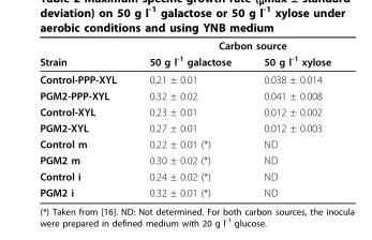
<table><thead><tr><td rowspan="2">Strain</td><td colspan="2">Carbon source</td></tr><tr><td>50 g l<sup>-1</sup> galactose</td><td>50 g l<sup>-1</sup> xylose</td></tr></thead><tbody><tr><td>Control-PPP-XYL</td><td>0.21 ± 0.01</td><td>0.038 ± 0.014</td></tr><tr><td>PGM2-PPP-XYL</td><td>0.32 ± 0.02</td><td>0.041 ± 0.008</td></tr><tr><td>Control-XYL</td><td>0.23 ± 0.01</td><td>0.012 ± 0.002</td></tr><tr><td>PGM2-XYL</td><td>0.27 ± 0.01</td><td>0.012 ± 0.003</td></tr><tr><td>Control m</td><td>0.22 ± 0.01 (*)</td><td>ND</td></tr><tr><td>PGM2 m</td><td>0.30 ± 0.02 (*)</td><td>ND</td></tr><tr><td>Control i</td><td>0.24 ± 0.02 (*)</td><td>ND</td></tr><tr><td>PGM2 i</td><td>0.32 ± 0.01 (*)</td><td>ND</td></tr></tbody></table>